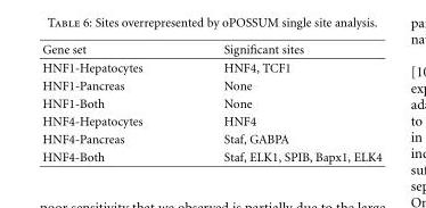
<table><thead><tr><td>Gene set</td><td>Significant sites</td></tr></thead><tbody><tr><td>HNF1-Hepatocytes</td><td>HNF4, TCF1</td></tr><tr><td>HNF1-Pancreas</td><td>None</td></tr><tr><td>HNF1-Both</td><td>None</td></tr><tr><td>HNF4-Hepatocytes</td><td>HNF4</td></tr><tr><td>HNF4-Pancreas</td><td>Staf, GABPA</td></tr><tr><td>HNF4-Both</td><td>Staf, ELK1, SPIB, Bapx1, ELK4</td></tr></tbody></table>